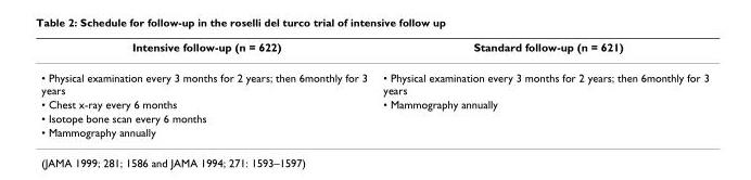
<table><thead><tr><td>Intensive follow-up (n = 622)</td><td>Standard follow-up (n = 621)</td></tr></thead><tbody><tr><td>• Physical examination every 3 months for 2 years; then 6monthly for 3 years</td><td>• Physical examination every 3 months for 2 years; then 6monthly for 3 years</td></tr><tr><td>• Chest x-ray every 6 months</td><td>• Mammography annually</td></tr><tr><td colspan="2">• Isotope bone scan every 6 months</td></tr><tr><td>• Mammography annually</td><td></td></tr></tbody></table>